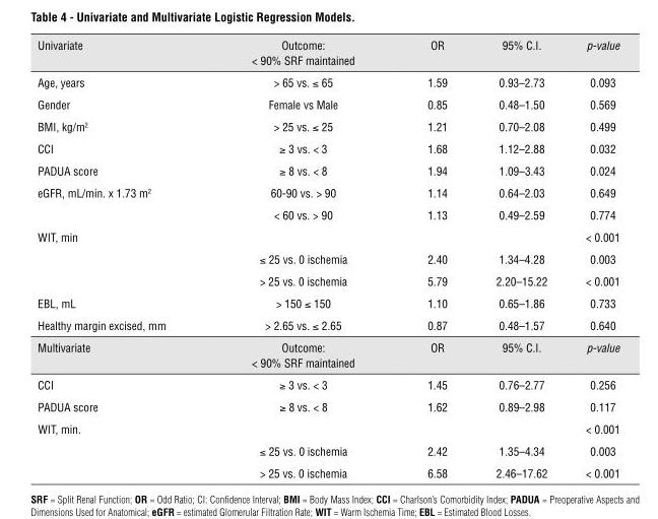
<table><thead><tr><td>Univariate</td><td>Outcome: &lt; 90% SRF maintained</td><td>OR</td><td>95% C.I.</td><td>p-value</td></tr></thead><tbody><tr><td>Age, years</td><td>&gt; 65 vs. ≤ 65</td><td>1.59</td><td>0.93–2.73</td><td>0.093</td></tr><tr><td>Gender</td><td>Female vs Male</td><td>0.85</td><td>0.48–1.50</td><td>0.569</td></tr><tr><td>BMI, kg/m<sup>2</sup></td><td>&gt; 25 vs. ≤ 25</td><td>1.21</td><td>0.70–2.08</td><td>0.499</td></tr><tr><td>CCI</td><td>≥ 3 vs. &lt; 3</td><td>1.68</td><td>1.12–2.88</td><td>0.032</td></tr><tr><td>PADUA score</td><td>≥ 8 vs. &lt; 8</td><td>1.94</td><td>1.09–3.43</td><td>0.024</td></tr><tr><td rowspan="2">eGFR, mL/min. x 1.73 m<sup>2</sup></td><td>60-90 vs. &gt; 90</td><td>1.14</td><td>0.64–2.03</td><td>0.649</td></tr><tr><td>&lt; 60 vs. &gt; 90</td><td>1.13</td><td>0.49–2.59</td><td>0.774</td></tr><tr><td rowspan="3">WIT, min</td><td></td><td></td><td></td><td>&lt; 0.001</td></tr><tr><td>≤ 25 vs. 0 ischemia</td><td>2.40</td><td>1.34–4.28</td><td>0.003</td></tr><tr><td>&gt; 25 vs. 0 ischemia</td><td>5.79</td><td>2.20–15.22</td><td>&lt; 0.001</td></tr><tr><td>EBL, mL</td><td>&gt; 150 ≤ 150</td><td>1.10</td><td>0.65–1.86</td><td>0.733</td></tr><tr><td>Healthy margin excised, mm</td><td>&gt; 2.65 vs. ≤ 2.65</td><td>0.87</td><td>0.48–1.57</td><td>0.640</td></tr><tr><td>Multivariate</td><td>Outcome: &lt; 90% SRF maintained</td><td>OR</td><td>95% C.I.</td><td>p-value</td></tr><tr><td>CCI</td><td>≥ 3 vs. &lt; 3</td><td>1.45</td><td>0.76–2.77</td><td>0.256</td></tr><tr><td>PADUA score</td><td>≥ 8 vs. &lt; 8</td><td>1.62</td><td>0.89–2.98</td><td>0.117</td></tr><tr><td rowspan="3">WIT, min.</td><td></td><td></td><td></td><td>&lt; 0.001</td></tr><tr><td>≤ 25 vs. 0 ischemia</td><td>2.42</td><td>1.35–4.34</td><td>0.003</td></tr><tr><td>&gt; 25 vs. 0 ischemia</td><td>6.58</td><td>2.46–17.62</td><td>&lt; 0.001</td></tr></tbody></table>